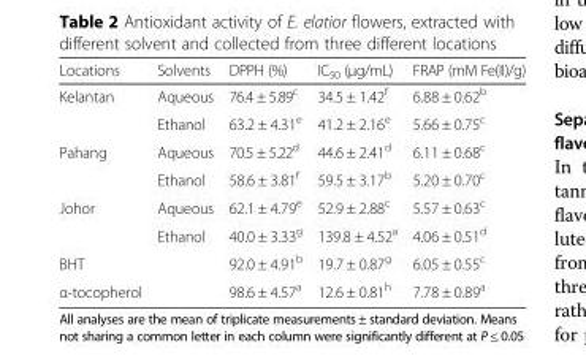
<table><thead><tr><td>Locations</td><td>Solvents</td><td>DPPH (%)</td><td>IC<sub>50</sub> (μg/mL)</td><td>FRAP (mM Fe(II)/g)</td></tr></thead><tbody><tr><td rowspan="2">Kelantan</td><td>Aqueous</td><td>76.4 ± 5.89<sup>c</sup></td><td>34.5 ± 1.42<sup>f</sup></td><td>6.88 ± 0.62<sup>b</sup></td></tr><tr><td>Ethanol</td><td>63.2 ± 4.31<sup>e</sup></td><td>41.2 ± 2.16<sup>e</sup></td><td>5.66 ± 0.75<sup>c</sup></td></tr><tr><td rowspan="2">Pahang</td><td>Aqueous</td><td>70.5 ± 5.22<sup>d</sup></td><td>44.6 ± 2.41<sup>d</sup></td><td>6.11 ± 0.68<sup>c</sup></td></tr><tr><td>Ethanol</td><td>58.6 ± 3.81<sup>f</sup></td><td>59.5 ± 3.17<sup>b</sup></td><td>5.20 ± 0.70<sup>c</sup></td></tr><tr><td rowspan="2">Johor</td><td>Aqueous</td><td>62.1 ± 4.79<sup>e</sup></td><td>52.9 ± 2.88<sup>c</sup></td><td>5.57 ± 0.63<sup>c</sup></td></tr><tr><td>Ethanol</td><td>40.0 ± 3.33<sup>g</sup></td><td>139.8 ± 4.52<sup>a</sup></td><td>4.06 ± 0.51<sup>d</sup></td></tr><tr><td>BHT</td><td></td><td>92.0 ± 4.91<sup>b</sup></td><td>19.7 ± 0.87<sup>g</sup></td><td>6.05 ± 0.55<sup>c</sup></td></tr><tr><td>α-tocopherol</td><td></td><td>98.6 ± 4.57<sup>a</sup></td><td>12.6 ± 0.81<sup>h</sup></td><td>7.78 ± 0.89<sup>a</sup></td></tr></tbody></table>